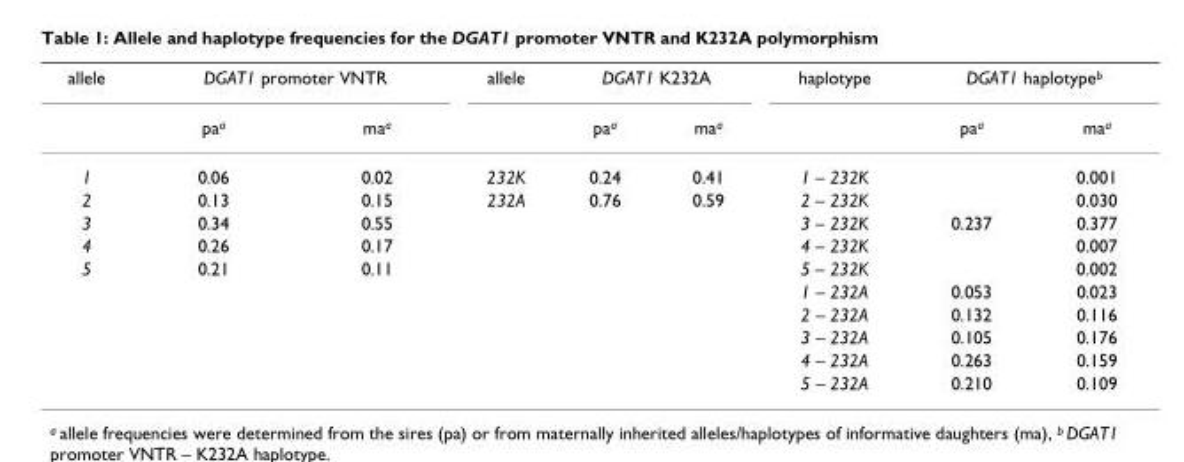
<table><thead><tr><td rowspan="2">allele</td><td colspan="2">DGAT1 promoter VNTR</td><td rowspan="2">allele</td><td colspan="2">DGAT1 K232A</td><td rowspan="2">haplotype</td><td colspan="2">DGAT1 haplotype<sup>b</sup></td></tr><tr><td>pa<sup>a</sup></td><td>ma<sup>a</sup></td><td>pa<sup>a</sup></td><td>ma<sup>a</sup></td><td>pa<sup>a</sup></td><td>ma<sup>a</sup></td></tr></thead><tbody><tr><td>1</td><td>0.06</td><td>0.02</td><td>232K</td><td>0.24</td><td>0.41</td><td>1 – 232K</td><td></td><td>0.001</td></tr><tr><td>2</td><td>0.13</td><td>0.15</td><td>232A</td><td>0.76</td><td>0.59</td><td>2 – 232K</td><td></td><td>0.030</td></tr><tr><td>3</td><td>0.34</td><td>0.55</td><td></td><td></td><td></td><td>3 – 232K</td><td>0.237</td><td>0.377</td></tr><tr><td>4</td><td>0.26</td><td>0.17</td><td></td><td></td><td></td><td>4 – 232K</td><td></td><td>0.007</td></tr><tr><td rowspan="6">5</td><td>0.21</td><td>0.11</td><td></td><td></td><td></td><td>5 – 232K</td><td></td><td>0.002</td></tr><tr><td></td><td></td><td></td><td></td><td></td><td>1 – 232A</td><td>0.053</td><td>0.023</td></tr><tr><td></td><td></td><td></td><td></td><td></td><td>2 – 232A</td><td>0.132</td><td>0.116</td></tr><tr><td></td><td></td><td></td><td></td><td></td><td>3 – 232A</td><td>0.105</td><td>0.176</td></tr><tr><td></td><td></td><td></td><td></td><td></td><td>4 – 232A</td><td>0.263</td><td>0.159</td></tr><tr><td></td><td></td><td></td><td></td><td></td><td>5 – 232A</td><td>0.210</td><td>0.109</td></tr></tbody></table>